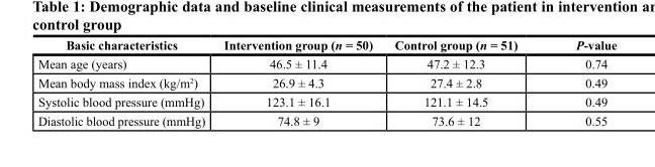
<table><thead><tr><td>Basic characteristics</td><td>Intervention group (n = 50)</td><td>Control group (n = 51)</td><td>P-value</td></tr></thead><tbody><tr><td>Mean age (years)</td><td>46.5 ± 11.4</td><td>47.2 ± 12.3</td><td>0.74</td></tr><tr><td>Mean body mass index (kg/m<sup>2</sup>)</td><td>26.9 ± 4.3</td><td>27.4 ± 2.8</td><td>0.49</td></tr><tr><td>Systolic blood pressure (mmHg)</td><td>123.1 ± 16.1</td><td>121.1 ± 14.5</td><td>0.49</td></tr><tr><td>Diastolic blood pressure (mmHg)</td><td>74.8 ± 9</td><td>73.6 ± 12</td><td>0.55</td></tr></tbody></table>